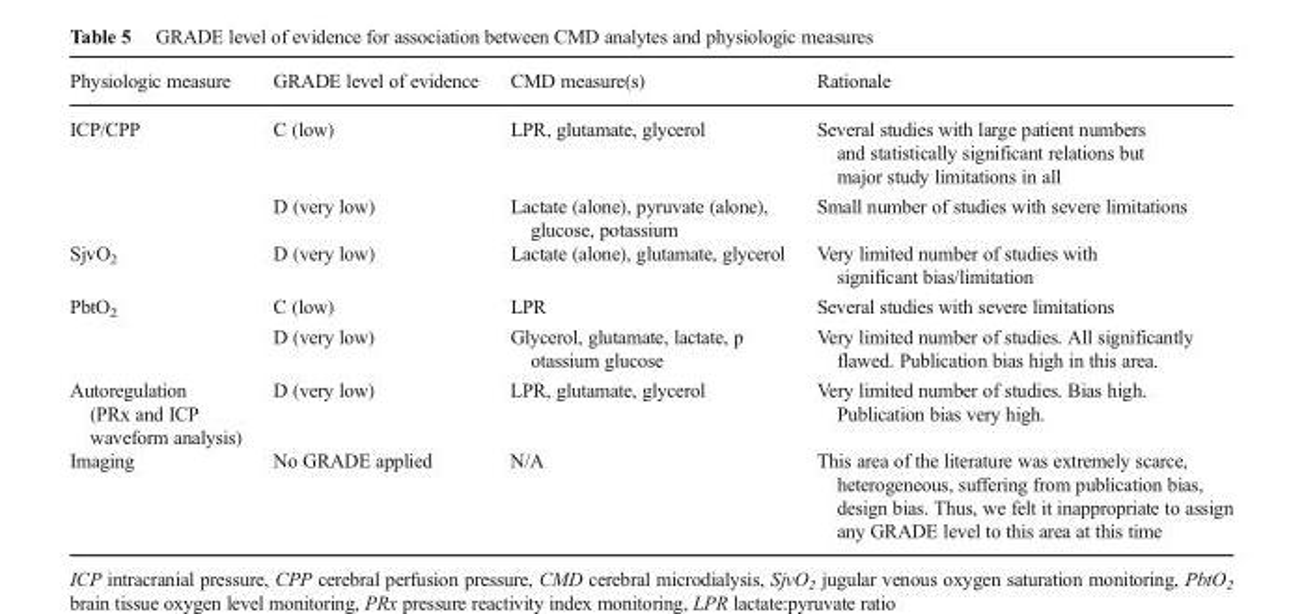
<table><thead><tr><td>Physiologic measure</td><td>GRADE level of evidence</td><td>CMD measure(s)</td><td>Rationale</td></tr></thead><tbody><tr><td rowspan="2">ICP/CPP</td><td>C (low)</td><td>LPR, glutamate, glycerol</td><td>Several studies with large patient numbers and statistically significant relations but major study limitations in all</td></tr><tr><td>D (very low)</td><td>Lactate (alone), pyruvate (alone), glucose, potassium</td><td>Small number of studies with severe limitations</td></tr><tr><td>SjvO<sub>2</sub></td><td>D (very low)</td><td>Lactate (alone), glutamate, glycerol</td><td>Very limited number of studies with significant bias/limitation</td></tr><tr><td rowspan="2">PbtO<sub>2</sub></td><td>C (low)</td><td>LPR</td><td>Several studies with severe limitations</td></tr><tr><td>D (very low)</td><td>Glycerol, glutamate, lactate, p otassium glucose</td><td>Very limited number of studies. All significantly flawed. Publication bias high in this area.</td></tr><tr><td>Autoregulation (PRx and ICP waveform analysis)</td><td>D (very low)</td><td>LPR, glutamate, glycerol</td><td>Very limited number of studies. Bias high. Publication bias very high.</td></tr><tr><td>Imaging</td><td>No GRADE applied</td><td>N/A</td><td>This area of the literature was extremely scarce, heterogeneous, suffering from publication bias, design bias. Thus, we felt it inappropriate to assign any GRADE level to this area at this time</td></tr></tbody></table>